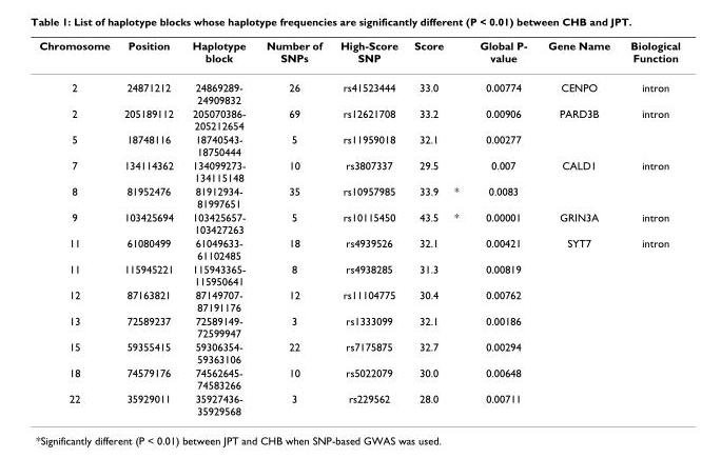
<table><thead><tr><td>Chromosome</td><td>Position</td><td>Haplotype block</td><td>Number of SNPs</td><td>High-Score SNP</td><td>Score</td><td></td><td>Global P- value</td><td>Gene Name</td><td>Biological Function</td></tr></thead><tbody><tr><td>2</td><td>24871212</td><td>24869289- 24909832</td><td>26</td><td>rs41523444</td><td>33.0</td><td></td><td>0.00774</td><td>CENPO</td><td>intron</td></tr><tr><td>2</td><td>205189112</td><td>205070386- 205212654</td><td>69</td><td>rs12621708</td><td>33.2</td><td></td><td>0.00906</td><td>PARD3B</td><td>intron</td></tr><tr><td>5</td><td>18748116</td><td>18740543- 18750444</td><td>5</td><td>rs11959018</td><td>32.1</td><td></td><td>0.00277</td><td></td><td></td></tr><tr><td>7</td><td>134114362</td><td>134099273- 134115148</td><td>10</td><td>rs3807337</td><td>29.5</td><td></td><td>0.007</td><td>CALD1</td><td>intron</td></tr><tr><td>8</td><td>81952476</td><td>81912934- 81997651</td><td>35</td><td>rs10957985</td><td>33.9</td><td>*</td><td>0.0083</td><td></td><td></td></tr><tr><td>9</td><td>103425694</td><td>103425657- 103427263</td><td>5</td><td>rs10115450</td><td>43.5</td><td>*</td><td>0.00001</td><td>GRIN3A</td><td>intron</td></tr><tr><td>11</td><td>61080499</td><td>61049633- 61102485</td><td>18</td><td>rs4939526</td><td>32.1</td><td></td><td>0.00421</td><td>SYT7</td><td>intron</td></tr><tr><td>11</td><td>115945221</td><td>115943365- 115950641</td><td>8</td><td>rs4938285</td><td>31.3</td><td></td><td>0.00819</td><td></td><td></td></tr><tr><td>12</td><td>87163821</td><td>87149707- 87191176</td><td>12</td><td>rs11104775</td><td>30.4</td><td></td><td>0.00762</td><td></td><td></td></tr><tr><td>13</td><td>72589237</td><td>72589149- 72599947</td><td>3</td><td>rs1333099</td><td>32.1</td><td></td><td>0.00186</td><td></td><td></td></tr><tr><td>15</td><td>59355415</td><td>59306354- 59363106</td><td>22</td><td>rs7175875</td><td>32.7</td><td></td><td>0.00294</td><td></td><td></td></tr><tr><td>18</td><td>74579176</td><td>74562645- 74583266</td><td>10</td><td>rs5022079</td><td>30.0</td><td></td><td>0.00648</td><td></td><td></td></tr><tr><td>22</td><td>35929011</td><td>35927436- 35929568</td><td>3</td><td>rs229562</td><td>28.0</td><td></td><td>0.00711</td><td></td><td></td></tr></tbody></table>